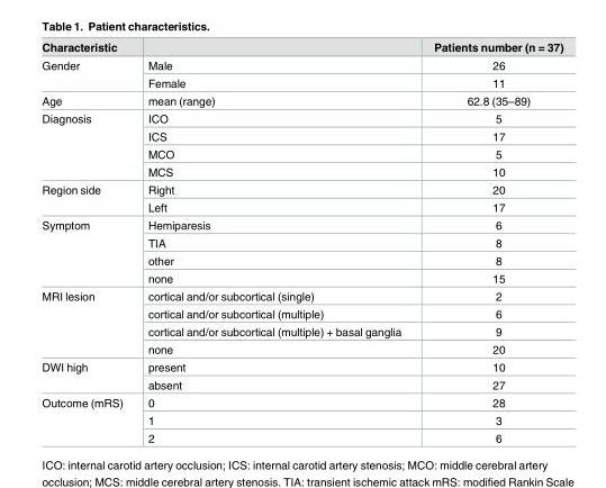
<table><thead><tr><td>Characteristic</td><td></td><td>Patients number (n = 37)</td></tr></thead><tbody><tr><td rowspan="2">Gender</td><td>Male</td><td>26</td></tr><tr><td>Female</td><td>11</td></tr><tr><td>Age</td><td>mean (range)</td><td>62.8 (35–89)</td></tr><tr><td rowspan="4">Diagnosis</td><td>ICO</td><td>5</td></tr><tr><td>ICS</td><td>17</td></tr><tr><td>MCO</td><td>5</td></tr><tr><td>MCS</td><td>10</td></tr><tr><td rowspan="2">Region side</td><td>Right</td><td>20</td></tr><tr><td>Left</td><td>17</td></tr><tr><td rowspan="4">Symptom</td><td>Hemiparesis</td><td>6</td></tr><tr><td>TIA</td><td>8</td></tr><tr><td>other</td><td>8</td></tr><tr><td>none</td><td>15</td></tr><tr><td rowspan="4">MRI lesion</td><td>cortical and/or subcortical (single)</td><td>2</td></tr><tr><td>cortical and/or subcortical (multiple)</td><td>6</td></tr><tr><td>cortical and/or subcortical (multiple) + basal ganglia</td><td>9</td></tr><tr><td>none</td><td>20</td></tr><tr><td rowspan="2">DWI high</td><td>present</td><td>10</td></tr><tr><td>absent</td><td>27</td></tr><tr><td rowspan="3">Outcome (mRS)</td><td>0</td><td>28</td></tr><tr><td>1</td><td>3</td></tr><tr><td>2</td><td>6</td></tr></tbody></table>